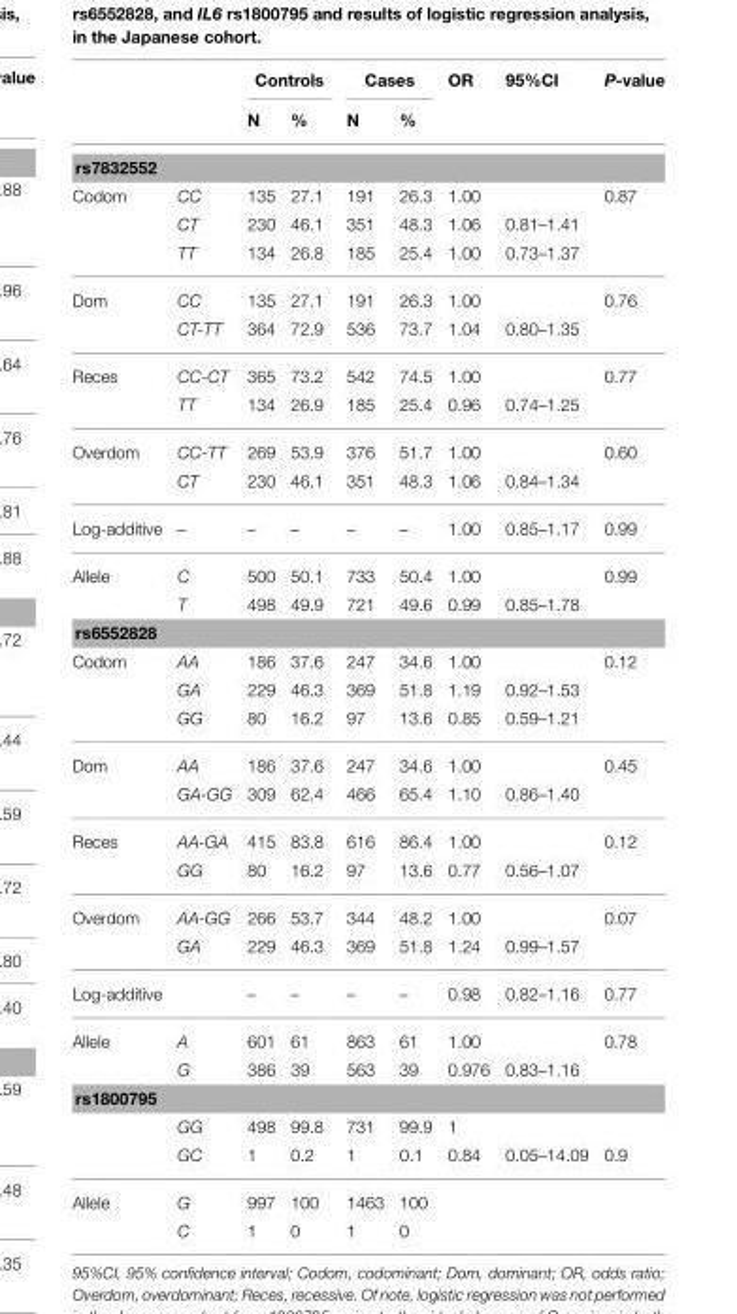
<table><thead><tr><td rowspan="2"></td><td rowspan="2"></td><td colspan="2">Controls</td><td colspan="2">Cases</td><td rowspan="2">OR</td><td rowspan="2">95%CI</td><td rowspan="2">P-value</td></tr><tr><td>N</td><td>%</td><td>N</td><td>%</td></tr></thead><tbody><tr><td colspan="9">rs7832552</td></tr><tr><td rowspan="3">Codom</td><td>CC</td><td>135</td><td>27.1</td><td>191</td><td>26.3</td><td>1.00</td><td></td><td>0.87</td></tr><tr><td>CT</td><td>230</td><td>46.1</td><td>351</td><td>48.3</td><td>1.06</td><td>0.81–1.41</td><td></td></tr><tr><td>TT</td><td>134</td><td>26.8</td><td>185</td><td>25.4</td><td>1.00</td><td>0.73–1.37</td><td></td></tr><tr><td rowspan="2">Dom</td><td>CC</td><td>135</td><td>27.1</td><td>191</td><td>26.3</td><td>1.00</td><td></td><td>0.76</td></tr><tr><td>CT-TT</td><td>364</td><td>72.9</td><td>536</td><td>73.7</td><td>1.04</td><td>0.80–1.35</td><td></td></tr><tr><td rowspan="2">Reces</td><td>CC-CT</td><td>365</td><td>73.2</td><td>542</td><td>74.5</td><td>1.00</td><td></td><td>0.77</td></tr><tr><td>TT</td><td>134</td><td>26.9</td><td>185</td><td>25.4</td><td>0.96</td><td>0.74–1.25</td><td></td></tr><tr><td rowspan="2">Overdom</td><td>CC-TT</td><td>269</td><td>53.9</td><td>376</td><td>51.7</td><td>1.00</td><td></td><td>0.60</td></tr><tr><td>CT</td><td>230</td><td>46.1</td><td>351</td><td>48.3</td><td>1.06</td><td>0.84–1.34</td><td></td></tr><tr><td>Log-additive</td><td>–</td><td>–</td><td>–</td><td>–</td><td>–</td><td>1.00</td><td>0.85–1.17</td><td>0.99</td></tr><tr><td rowspan="2">Allele</td><td>C</td><td>500</td><td>50.1</td><td>733</td><td>50.4</td><td>1.00</td><td></td><td>0.99</td></tr><tr><td>T</td><td>498</td><td>49.9</td><td>721</td><td>49.6</td><td>0.99</td><td>0.85–1.78</td><td></td></tr><tr><td colspan="9">rs6552828</td></tr><tr><td rowspan="3">Codom</td><td>AA</td><td>186</td><td>37.6</td><td>247</td><td>34.6</td><td>1.00</td><td></td><td>0.12</td></tr><tr><td>GA</td><td>229</td><td>46.3</td><td>369</td><td>51.8</td><td>1.19</td><td>0.92–1.53</td><td></td></tr><tr><td>GG</td><td>80</td><td>16.2</td><td>97</td><td>13.6</td><td>0.85</td><td>0.59–1.21</td><td></td></tr><tr><td rowspan="2">Dom</td><td>AA</td><td>186</td><td>37.6</td><td>247</td><td>34.6</td><td>1.00</td><td></td><td>0.45</td></tr><tr><td>GA-GG</td><td>309</td><td>62.4</td><td>466</td><td>65.4</td><td>1.10</td><td>0.86–1.40</td><td></td></tr><tr><td rowspan="2">Reces</td><td>AA-GA</td><td>415</td><td>83.8</td><td>616</td><td>86.4</td><td>1.00</td><td></td><td>0.12</td></tr><tr><td>GG</td><td>80</td><td>16.2</td><td>97</td><td>13.6</td><td>0.77</td><td>0.56–1.07</td><td></td></tr><tr><td rowspan="2">Overdom</td><td>AA-GG</td><td>266</td><td>53.7</td><td>344</td><td>48.2</td><td>1.00</td><td></td><td>0.07</td></tr><tr><td>GA</td><td>229</td><td>46.3</td><td>369</td><td>51.8</td><td>1.24</td><td>0.99–1.57</td><td></td></tr><tr><td>Log-additive</td><td></td><td>–</td><td>–</td><td>–</td><td>–</td><td>0.98</td><td>0.82–1.16</td><td>0.77</td></tr><tr><td rowspan="2">Allele</td><td>A</td><td>601</td><td>61</td><td>863</td><td>61</td><td>1.00</td><td></td><td>0.78</td></tr><tr><td>G</td><td>386</td><td>39</td><td>563</td><td>39</td><td>0.976</td><td>0.83–1.16</td><td></td></tr><tr><td colspan="9">rs1800795</td></tr><tr><td></td><td>GG</td><td>498</td><td>99.8</td><td>731</td><td>99.9</td><td>1</td><td></td><td></td></tr><tr><td></td><td>GC</td><td>1</td><td>0.2</td><td>1</td><td>0.1</td><td>0.84</td><td>0.05–14.09</td><td>0.9</td></tr><tr><td rowspan="2">Allele</td><td>G</td><td>997</td><td>100</td><td>1463</td><td>100</td><td></td><td></td><td></td></tr><tr><td>C</td><td>1</td><td>0</td><td>1</td><td>0</td><td></td><td></td><td></td></tr></tbody></table>